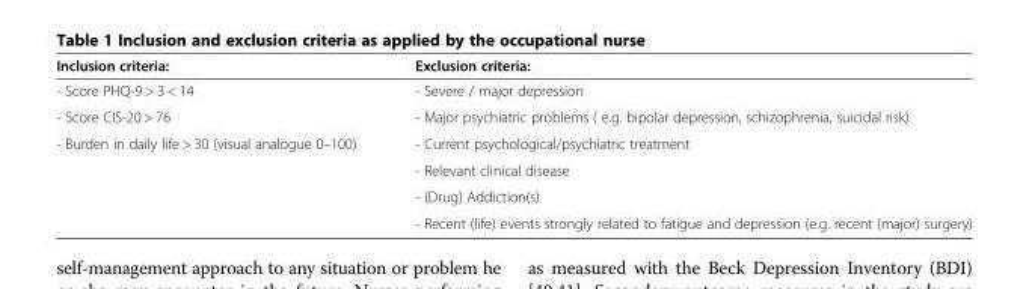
<table><thead><tr><td>Inclusion criteria:</td><td>Exclusion criteria:</td></tr></thead><tbody><tr><td>- Score PHQ-9 &gt; 3 &lt; 14</td><td>- Severe / major depression</td></tr><tr><td>- Score CIS-20 &gt; 76</td><td>- Major psychiatric problems ( e.g. bipolar depression, schizophrenia, suicidal risk)</td></tr><tr><td rowspan="4">- Burden in daily life &gt; 30 (visual analogue 0–100)</td><td>- Current psychological/psychiatric treatment</td></tr><tr><td>- Relevant clinical disease</td></tr><tr><td>- (Drug) Addiction(s)</td></tr><tr><td>- Recent (life) events strongly related to fatigue and depression (e.g. recent (major) surgery)</td></tr></tbody></table>